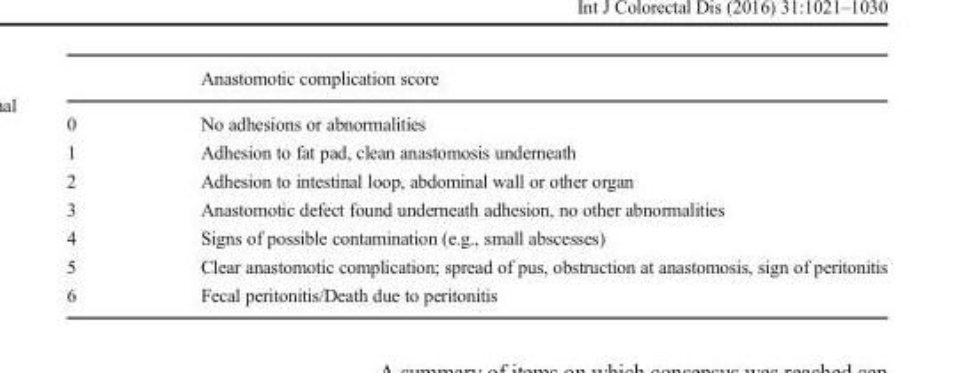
<table><thead><tr><td></td><td>Anastomotic complication score</td></tr></thead><tbody><tr><td>0</td><td>No adhesions or abnormalities</td></tr><tr><td>1</td><td>Adhesion to fat pad, clean anastomosis underneath</td></tr><tr><td>2</td><td>Adhesion to intestinal loop, abdominal wall or other organ</td></tr><tr><td>3</td><td>Anastomotic defect found underneath adhesion, no other abnormalities</td></tr><tr><td>4</td><td>Signs of possible contamination (e.g., small abscesses)</td></tr><tr><td>5</td><td>Clear anastomotic complication; spread of pus, obstruction at anastomosis, sign of peritonitis</td></tr><tr><td>6</td><td>Fecal peritonitis/Death due to peritonitis</td></tr></tbody></table>